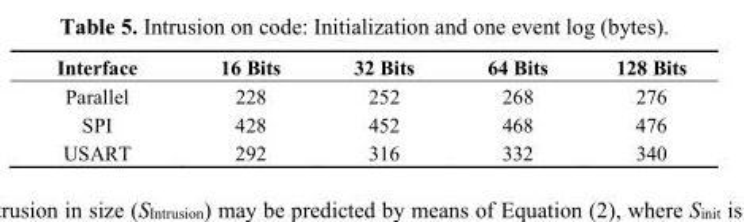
<table><thead><tr><td>Interface</td><td>16 Bits</td><td>32 Bits</td><td>64 Bits</td><td>128 Bits</td></tr></thead><tbody><tr><td>Parallel</td><td>228</td><td>252</td><td>268</td><td>276</td></tr><tr><td>SPI</td><td>428</td><td>452</td><td>468</td><td>476</td></tr><tr><td>USART</td><td>292</td><td>316</td><td>332</td><td>340</td></tr></tbody></table>